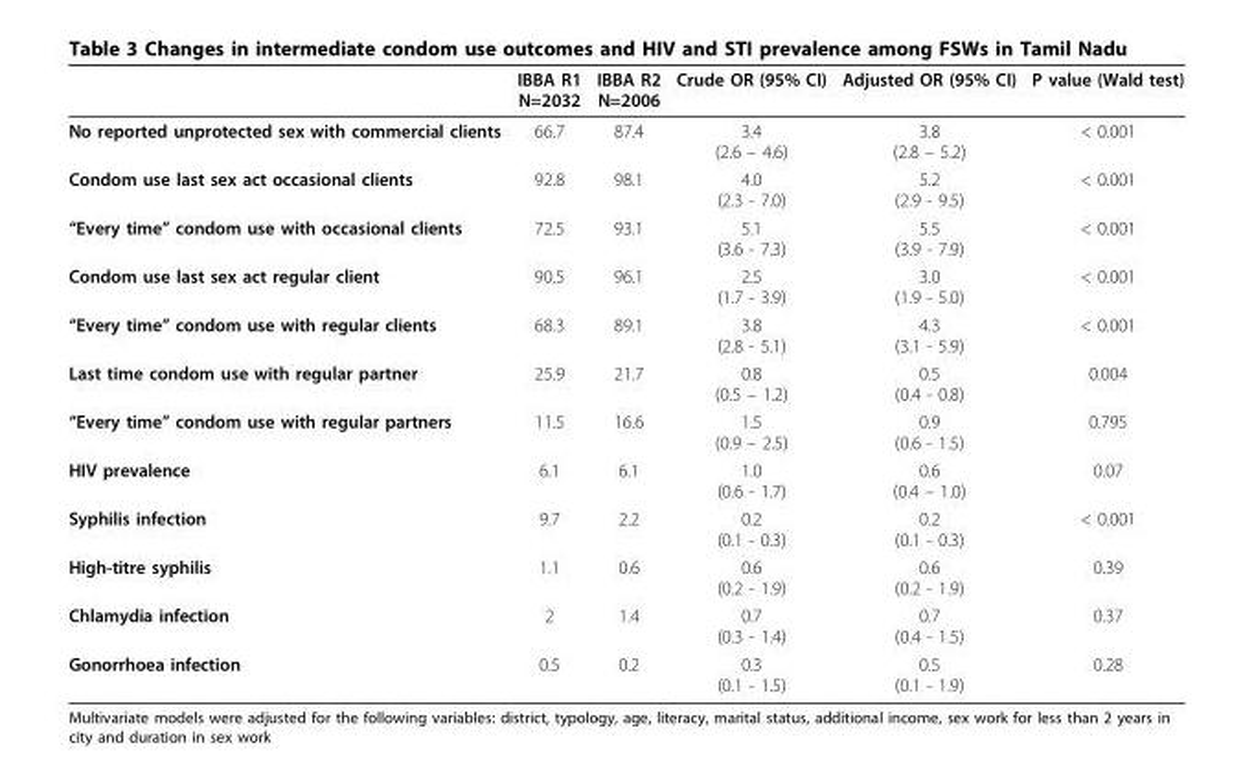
<table><thead><tr><td></td><td>IBBA R1 N=2032</td><td>IBBA R2 N=2006</td><td>Crude OR (95% CI)</td><td>Adjusted OR (95% CI)</td><td>P value (Wald test)</td></tr></thead><tbody><tr><td>No reported unprotected sex with commercial clients</td><td>66.7</td><td>87.4</td><td>3.4 (2.6 – 4.6)</td><td>3.8 (2.8 – 5.2)</td><td>&lt; 0.001</td></tr><tr><td>Condom use last sex act occasional clients</td><td>92.8</td><td>98.1</td><td>4.0 (2.3 - 7.0)</td><td>5.2 (2.9 - 9.5)</td><td>&lt; 0.001</td></tr><tr><td>“Every time” condom use with occasional clients</td><td>72.5</td><td>93.1</td><td>5.1 (3.6 - 7.3)</td><td>5.5 (3.9 - 7.9)</td><td>&lt; 0.001</td></tr><tr><td>Condom use last sex act regular client</td><td>90.5</td><td>96.1</td><td>2.5 (1.7 - 3.9)</td><td>3.0 (1.9 - 5.0)</td><td>&lt; 0.001</td></tr><tr><td>“Every time” condom use with regular clients</td><td>68.3</td><td>89.1</td><td>3.8 (2.8 - 5.1)</td><td>4.3 (3.1 - 5.9)</td><td>&lt; 0.001</td></tr><tr><td>Last time condom use with regular partner</td><td>25.9</td><td>21.7</td><td>0.8 (0.5 – 1.2)</td><td>0.5 (0.4 - 0.8)</td><td>0.004</td></tr><tr><td>“Every time” condom use with regular partners</td><td>11.5</td><td>16.6</td><td>1.5 (0.9 – 2.5)</td><td>0.9 (0.6 - 1.5)</td><td>0.795</td></tr><tr><td>HIV prevalence</td><td>6.1</td><td>6.1</td><td>1.0 (0.6 - 1.7)</td><td>0.6 (0.4 – 1.0)</td><td>0.07</td></tr><tr><td>Syphilis infection</td><td>9.7</td><td>2.2</td><td>0.2 (0.1 - 0.3)</td><td>0.2 (0.1 - 0.3)</td><td>&lt; 0.001</td></tr><tr><td>High-titre syphilis</td><td>1.1</td><td>0.6</td><td>0.6 (0.2 - 1.9)</td><td>0.6 (0.2 - 1.9)</td><td>0.39</td></tr><tr><td>Chlamydia infection</td><td>2</td><td>1.4</td><td>0.7 (0.3 - 1.4)</td><td>0.7 (0.4 - 1.5)</td><td>0.37</td></tr><tr><td>Gonorrhoea infection</td><td>0.5</td><td>0.2</td><td>0.3 (0.1 - 1.5)</td><td>0.5 (0.1 - 1.9)</td><td>0.28</td></tr></tbody></table>